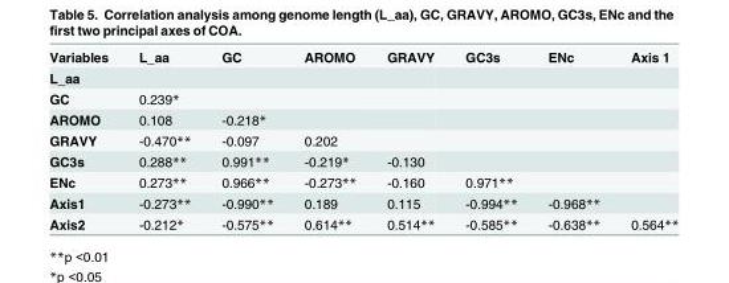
<table><tbody><tr><td>Variables</td><td>L_aa</td><td>GC</td><td>AROMO</td><td>GRAVY</td><td>GC3s</td><td>ENc</td><td>Axis 1</td></tr><tr><td colspan="8">L_aa</td></tr><tr><td>GC</td><td>0.239*</td><td></td><td></td><td></td><td></td><td></td><td></td></tr><tr><td>AROMO</td><td>0.108</td><td>-0.218*</td><td></td><td></td><td></td><td></td><td></td></tr><tr><td>GRAVY</td><td>-0.470**</td><td>-0.097</td><td>0.202</td><td></td><td></td><td></td><td></td></tr><tr><td>GC3s</td><td>0.288**</td><td>0.991**</td><td>-0.219*</td><td>-0.130</td><td></td><td></td><td></td></tr><tr><td>ENc</td><td>0.273**</td><td>0.966**</td><td>-0.273**</td><td>-0.160</td><td>0.971**</td><td></td><td></td></tr><tr><td>Axis1</td><td>-0.273**</td><td>-0.990**</td><td>0.189</td><td>0.115</td><td>-0.994**</td><td>-0.968**</td><td></td></tr><tr><td>Axis2</td><td>-0.212*</td><td>-0.575**</td><td>0.614**</td><td>0.514**</td><td>-0.585**</td><td>-0.638**</td><td>0.564**</td></tr></tbody></table>